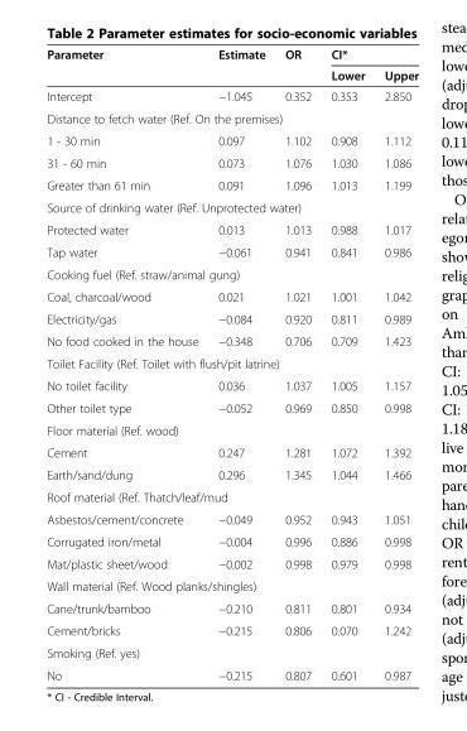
<table><thead><tr><td rowspan="2">Parameter</td><td rowspan="2">Estimate</td><td rowspan="2">OR</td><td colspan="2">CI*</td></tr><tr><td>Lower</td><td>Upper</td></tr></thead><tbody><tr><td>Intercept</td><td>−1.045</td><td>0.352</td><td>0.353</td><td>2.850</td></tr><tr><td colspan="5">Distance to fetch water (Ref. On the premises)</td></tr><tr><td>1 - 30 min</td><td>0.097</td><td>1.102</td><td>0.908</td><td>1.112</td></tr><tr><td>31 - 60 min</td><td>0.073</td><td>1.076</td><td>1.030</td><td>1.086</td></tr><tr><td>Greater than 61 min</td><td>0.091</td><td>1.096</td><td>1.013</td><td>1.199</td></tr><tr><td colspan="5">Source of drinking water (Ref. Unprotected water)</td></tr><tr><td>Protected water</td><td>0.013</td><td>1.013</td><td>0.988</td><td>1.017</td></tr><tr><td>Tap water</td><td>−0.061</td><td>0.941</td><td>0.841</td><td>0.986</td></tr><tr><td colspan="5">Cooking fuel (Ref. straw/animal gung)</td></tr><tr><td>Coal, charcoal/wood</td><td>0.021</td><td>1.021</td><td>1.001</td><td>1.042</td></tr><tr><td>Electricity/gas</td><td>−0.084</td><td>0.920</td><td>0.811</td><td>0.989</td></tr><tr><td>No food cooked in the house</td><td>−0.348</td><td>0.706</td><td>0.709</td><td>1.423</td></tr><tr><td colspan="5">Toilet Facility (Ref. Toilet with flush/pit latrine)</td></tr><tr><td>No toilet facility</td><td>0.036</td><td>1.037</td><td>1.005</td><td>1.157</td></tr><tr><td>Other toilet type</td><td>−0.052</td><td>0.969</td><td>0.850</td><td>0.998</td></tr><tr><td colspan="5">Floor material (Ref. wood)</td></tr><tr><td>Cement</td><td>0.247</td><td>1.281</td><td>1.072</td><td>1.392</td></tr><tr><td>Earth/sand/dung</td><td>0.296</td><td>1.345</td><td>1.044</td><td>1.466</td></tr><tr><td colspan="5">Roof material (Ref. Thatch/leaf/mud</td></tr><tr><td>Asbestos/cement/concrete</td><td>−0.049</td><td>0.952</td><td>0.943</td><td>1.051</td></tr><tr><td>Corrugated iron/metal</td><td>−0.004</td><td>0.996</td><td>0.886</td><td>0.998</td></tr><tr><td>Mat/plastic sheet/wood</td><td>−0.002</td><td>0.998</td><td>0.979</td><td>0.998</td></tr><tr><td colspan="5">Wall material (Ref. Wood planks/shingles)</td></tr><tr><td>Cane/trunk/bamboo</td><td>−0.210</td><td>0.811</td><td>0.801</td><td>0.934</td></tr><tr><td>Cement/bricks</td><td>−0.215</td><td>0.806</td><td>0.070</td><td>1.242</td></tr><tr><td colspan="5">Smoking (Ref. yes)</td></tr><tr><td>No</td><td>−0.215</td><td>0.807</td><td>0.601</td><td>0.987</td></tr></tbody></table>